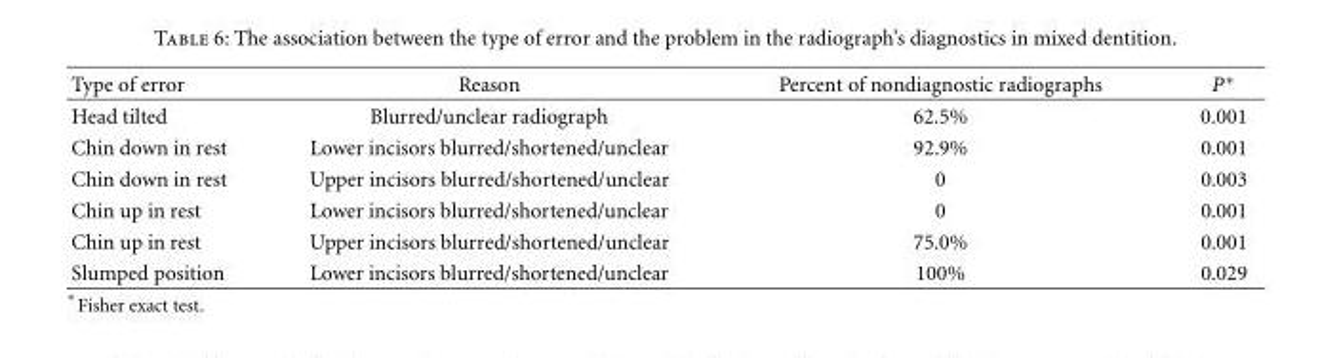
<table><thead><tr><td>Type of error</td><td>Reason</td><td>Percent of nondiagnostic radiographs</td><td>P∗</td></tr></thead><tbody><tr><td>Head tilted</td><td>Blurred/unclear radiograph</td><td>62.5%</td><td>0.001</td></tr><tr><td>Chin down in rest</td><td>Lower incisors blurred/shortened/unclear</td><td>92.9%</td><td>0.001</td></tr><tr><td>Chin down in rest</td><td>Upper incisors blurred/shortened/unclear</td><td>0</td><td>0.003</td></tr><tr><td>Chin up in rest</td><td>Lower incisors blurred/shortened/unclear</td><td>0</td><td>0.001</td></tr><tr><td>Chin up in rest</td><td>Upper incisors blurred/shortened/unclear</td><td>75.0%</td><td>0.001</td></tr><tr><td>Slumped position</td><td>Lower incisors blurred/shortened/unclear</td><td>100%</td><td>0.029</td></tr></tbody></table>